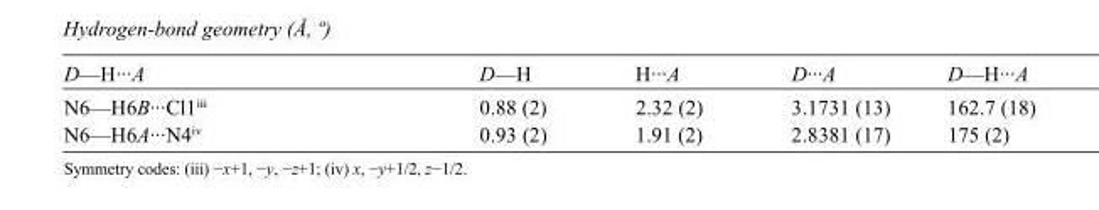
<table><tbody><tr><td>D—H···A</td><td>D—H</td><td>H···A</td><td>D···A</td><td>D—H···A</td></tr><tr><td>N6—H6B···Cl1<sup>iii</sup></td><td>0.88 (2)</td><td>2.32 (2)</td><td>3.1731 (13)</td><td>162.7 (18)</td></tr><tr><td>N6—H6A···N4<sup>iv</sup></td><td>0.93 (2)</td><td>1.91 (2)</td><td>2.8381 (17)</td><td>175 (2)</td></tr></tbody></table>